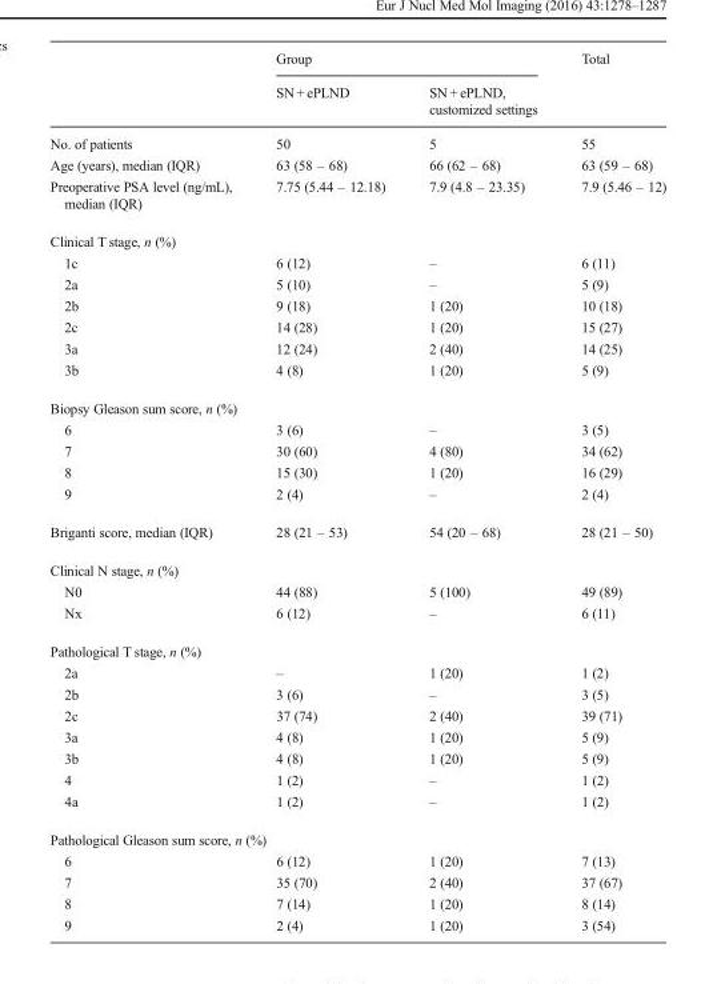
<table><thead><tr><td rowspan="2"></td><td colspan="2">Group</td><td rowspan="2">Total</td></tr><tr><td>SN + ePLND</td><td>SN + ePLND, customized settings</td></tr></thead><tbody><tr><td>No. of patients</td><td>50</td><td>5</td><td>55</td></tr><tr><td>Age (years), median (IQR)</td><td>63 (58 – 68)</td><td>66 (62 – 68)</td><td>63 (59 – 68)</td></tr><tr><td>Preoperative PSA level (ng/mL), median (IQR)</td><td>7.75 (5.44 – 12.18)</td><td>7.9 (4.8 – 23.35)</td><td>7.9 (5.46 – 12)</td></tr><tr><td colspan="4">Clinical T stage, n (%)</td></tr><tr><td>1c</td><td>6 (12)</td><td>–</td><td>6 (11)</td></tr><tr><td>2a</td><td>5 (10)</td><td>–</td><td>5 (9)</td></tr><tr><td>2b</td><td>9 (18)</td><td>1 (20)</td><td>10 (18)</td></tr><tr><td>2c</td><td>14 (28)</td><td>1 (20)</td><td>15 (27)</td></tr><tr><td>3a</td><td>12 (24)</td><td>2 (40)</td><td>14 (25)</td></tr><tr><td>3b</td><td>4 (8)</td><td>1 (20)</td><td>5 (9)</td></tr><tr><td colspan="4">Biopsy Gleason sum score, n (%)</td></tr><tr><td>6</td><td>3 (6)</td><td>–</td><td>3 (5)</td></tr><tr><td>7</td><td>30 (60)</td><td>4 (80)</td><td>34 (62)</td></tr><tr><td>8</td><td>15 (30)</td><td>1 (20)</td><td>16 (29)</td></tr><tr><td>9</td><td>2 (4)</td><td>–</td><td>2 (4)</td></tr><tr><td>Briganti score, median (IQR)</td><td>28 (21 – 53)</td><td>54 (20 – 68)</td><td>28 (21 – 50)</td></tr><tr><td colspan="4">Clinical N stage, n (%)</td></tr><tr><td>N0</td><td>44 (88)</td><td>5 (100)</td><td>49 (89)</td></tr><tr><td>Nx</td><td>6 (12)</td><td>–</td><td>6 (11)</td></tr><tr><td colspan="4">Pathological T stage, n (%)</td></tr><tr><td>2a</td><td>–</td><td>1 (20)</td><td>1 (2)</td></tr><tr><td>2b</td><td>3 (6)</td><td>–</td><td>3 (5)</td></tr><tr><td>2c</td><td>37 (74)</td><td>2 (40)</td><td>39 (71)</td></tr><tr><td>3a</td><td>4 (8)</td><td>1 (20)</td><td>5 (9)</td></tr><tr><td>3b</td><td>4 (8)</td><td>1 (20)</td><td>5 (9)</td></tr><tr><td>4</td><td>1 (2)</td><td>–</td><td>1 (2)</td></tr><tr><td>4a</td><td>1 (2)</td><td>–</td><td>1 (2)</td></tr><tr><td colspan="4">Pathological Gleason sum score, n (%)</td></tr><tr><td>6</td><td>6 (12)</td><td>1 (20)</td><td>7 (13)</td></tr><tr><td>7</td><td>35 (70)</td><td>2 (40)</td><td>37 (67)</td></tr><tr><td>8</td><td>7 (14)</td><td>1 (20)</td><td>8 (14)</td></tr><tr><td>9</td><td>2 (4)</td><td>1 (20)</td><td>3 (54)</td></tr></tbody></table>